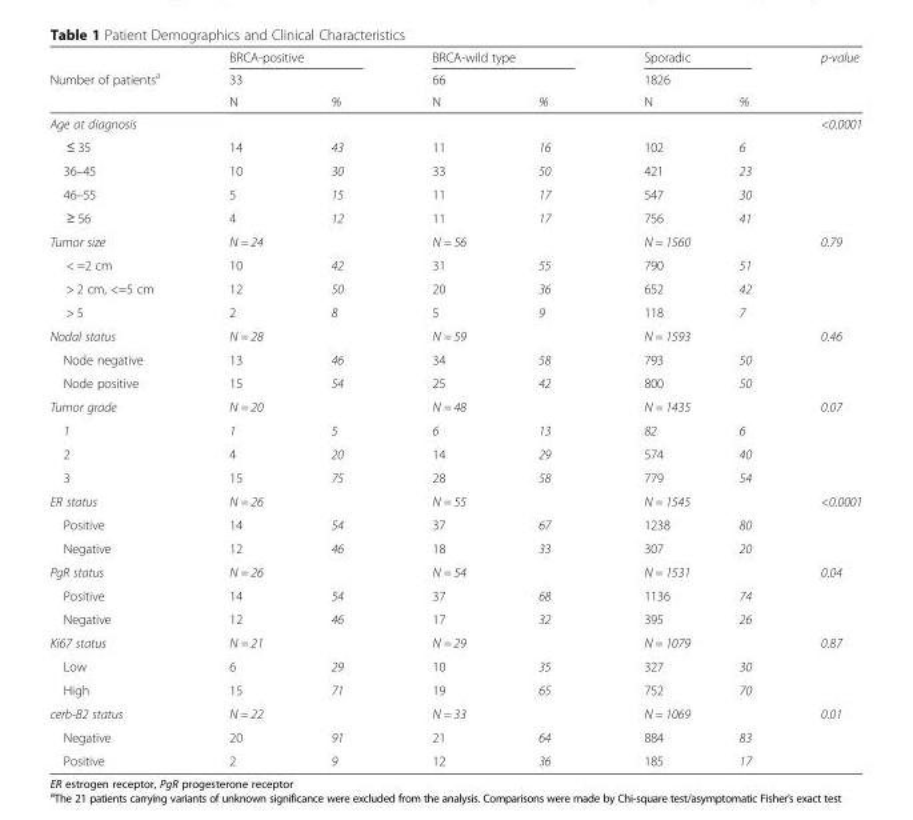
<table><thead><tr><td rowspan="3">Number of patients<sup>a</sup></td><td colspan="2">BRCA-positive</td><td colspan="2">BRCA-wild type</td><td colspan="2">Sporadic</td><td rowspan="3">p-value</td></tr><tr><td rowspan="2">33 N</td><td rowspan="2">%</td><td rowspan="2">66 N</td><td rowspan="2">%</td><td rowspan="2">1826 N</td><td rowspan="2">%</td></tr><tr></tr></thead><tbody><tr><td>Age at diagnosis</td><td></td><td></td><td></td><td></td><td></td><td></td><td>&lt;0.0001</td></tr><tr><td>≤ 35</td><td>14</td><td>43</td><td>11</td><td>16</td><td>102</td><td>6</td><td></td></tr><tr><td>36–45</td><td>10</td><td>30</td><td>33</td><td>50</td><td>421</td><td>23</td><td></td></tr><tr><td>46–55</td><td>5</td><td>15</td><td>11</td><td>17</td><td>547</td><td>30</td><td></td></tr><tr><td>≥ 56</td><td>4</td><td>12</td><td>11</td><td>17</td><td>756</td><td>41</td><td></td></tr><tr><td>Tumor size</td><td colspan="2">N = 24</td><td colspan="2">N = 56</td><td colspan="2">N = 1560</td><td>0.79</td></tr><tr><td>&lt; =2 cm</td><td>10</td><td>42</td><td>31</td><td>55</td><td>790</td><td>51</td><td></td></tr><tr><td>&gt; 2 cm, &lt;=5 cm</td><td>12</td><td>50</td><td>20</td><td>36</td><td>652</td><td>42</td><td></td></tr><tr><td>&gt; 5</td><td>2</td><td>8</td><td>5</td><td>9</td><td>118</td><td>7</td><td></td></tr><tr><td>Nodal status</td><td colspan="2">N = 28</td><td colspan="2">N = 59</td><td colspan="2">N = 1593</td><td>0.46</td></tr><tr><td>Node negative</td><td>13</td><td>46</td><td>34</td><td>58</td><td>793</td><td>50</td><td></td></tr><tr><td>Node positive</td><td>15</td><td>54</td><td>25</td><td>42</td><td>800</td><td>50</td><td></td></tr><tr><td>Tumor grade</td><td colspan="2">N = 20</td><td colspan="2">N = 48</td><td colspan="2">N = 1435</td><td>0.07</td></tr><tr><td>1</td><td>1</td><td>5</td><td>6</td><td>13</td><td>82</td><td>6</td><td></td></tr><tr><td>2</td><td>4</td><td>20</td><td>14</td><td>29</td><td>574</td><td>40</td><td></td></tr><tr><td>3</td><td>15</td><td>75</td><td>28</td><td>58</td><td>779</td><td>54</td><td></td></tr><tr><td>ER status</td><td colspan="2">N = 26</td><td colspan="2">N = 55</td><td colspan="2">N = 1545</td><td>&lt;0.0001</td></tr><tr><td>Positive</td><td>14</td><td>54</td><td>37</td><td>67</td><td>1238</td><td>80</td><td></td></tr><tr><td>Negative</td><td>12</td><td>46</td><td>18</td><td>33</td><td>307</td><td>20</td><td></td></tr><tr><td>PgR status</td><td colspan="2">N = 26</td><td colspan="2">N = 54</td><td colspan="2">N = 1531</td><td>0.04</td></tr><tr><td>Positive</td><td>14</td><td>54</td><td>37</td><td>68</td><td>1136</td><td>74</td><td></td></tr><tr><td>Negative</td><td>12</td><td>46</td><td>17</td><td>32</td><td>395</td><td>26</td><td></td></tr><tr><td>Ki67 status</td><td colspan="2">N = 21</td><td colspan="2">N = 29</td><td colspan="2">N = 1079</td><td>0.87</td></tr><tr><td>Low</td><td>6</td><td>29</td><td>10</td><td>35</td><td>327</td><td>30</td><td></td></tr><tr><td>High</td><td>15</td><td>71</td><td>19</td><td>65</td><td>752</td><td>70</td><td></td></tr><tr><td>cerb-B2 status</td><td colspan="2">N = 22</td><td colspan="2">N = 33</td><td colspan="2">N = 1069</td><td>0.01</td></tr><tr><td>Negative</td><td>20</td><td>91</td><td>21</td><td>64</td><td>884</td><td>83</td><td></td></tr><tr><td>Positive</td><td>2</td><td>9</td><td>12</td><td>36</td><td>185</td><td>17</td><td></td></tr></tbody></table>